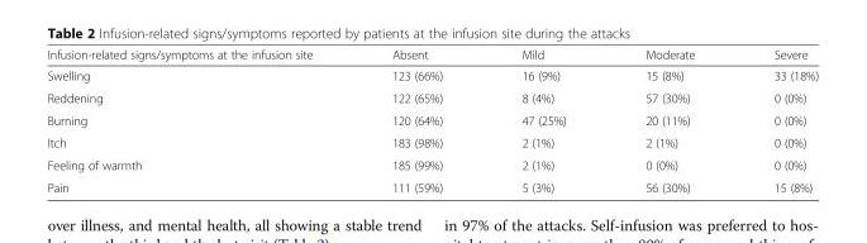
<table><thead><tr><td>Infusion-related signs/symptoms at the infusion site</td><td>Absent</td><td>Mild</td><td>Moderate</td><td>Severe</td></tr></thead><tbody><tr><td>Swelling</td><td>123 (66%)</td><td>16 (9%)</td><td>15 (8%)</td><td>33 (18%)</td></tr><tr><td>Reddening</td><td>122 (65%)</td><td>8 (4%)</td><td>57 (30%)</td><td>0 (0%)</td></tr><tr><td>Burning</td><td>120 (64%)</td><td>47 (25%)</td><td>20 (11%)</td><td>0 (0%)</td></tr><tr><td>Itch</td><td>183 (98%)</td><td>2 (1%)</td><td>2 (1%)</td><td>0 (0%)</td></tr><tr><td>Feeling of warmth</td><td>185 (99%)</td><td>2 (1%)</td><td>0 (0%)</td><td>0 (0%)</td></tr><tr><td>Pain</td><td>111 (59%)</td><td>5 (3%)</td><td>56 (30%)</td><td>15 (8%)</td></tr></tbody></table>